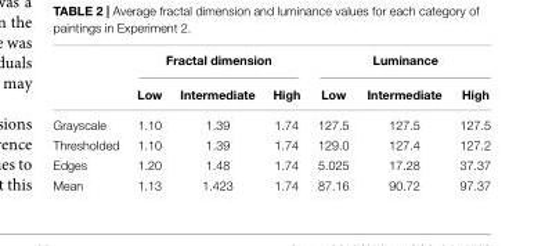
<table><thead><tr><td rowspan="2"></td><td colspan="3">Fractal dimension</td><td colspan="3">Luminance</td></tr><tr><td>Low</td><td>Intermediate</td><td>High</td><td>Low</td><td>Intermediate</td><td>High</td></tr></thead><tbody><tr><td>Grayscale</td><td>1.10</td><td>1.39</td><td>1.74</td><td>127.5</td><td>127.5</td><td>127.5</td></tr><tr><td>Thresholded</td><td>1.10</td><td>1.39</td><td>1.74</td><td>129.0</td><td>127.4</td><td>127.2</td></tr><tr><td>Edges</td><td>1.20</td><td>1.48</td><td>1.74</td><td>5.025</td><td>17.28</td><td>37.37</td></tr><tr><td>Mean</td><td>1.13</td><td>1.423</td><td>1.74</td><td>87.16</td><td>90.72</td><td>97.37</td></tr></tbody></table>